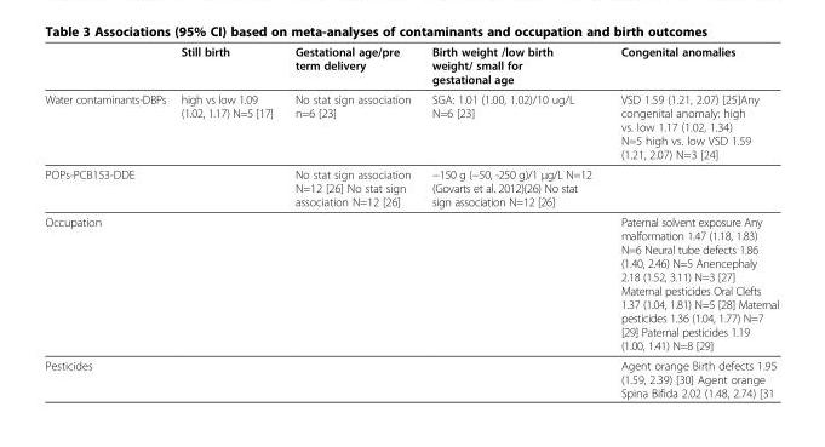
<table><thead><tr><td></td><td>Still birth</td><td>Gestational age/pre term delivery</td><td>Birth weight /low birth weight/ small for gestational age</td><td>Congenital anomalies</td></tr></thead><tbody><tr><td>Water contaminants-DBPs</td><td>high vs low 1.09 (1.02, 1.17) N=5 [17]</td><td>No stat sign association n=6 [23]</td><td>SGA: 1.01 (1.00, 1.02)/10 ug/L N=6 [23]</td><td>VSD 1.59 (1.21, 2.07) [25]Any congenital anomaly: high vs. low 1.17 (1.02, 1.34) N=5 high vs. low VSD 1.59 (1.21, 2.07) N=3 [24]</td></tr><tr><td>POPs-PCB153-DDE</td><td></td><td>No stat sign association N=12 [26] No stat sign association N=12 [26]</td><td>−150 g (−50, -250 g)/1 μg/L N=12 (Govarts et al. 2012)(26) No stat sign association N=12 [26]</td><td></td></tr><tr><td>Occupation</td><td></td><td></td><td></td><td>Paternal solvent exposure Any malformation 1.47 (1.18, 1.83) N=6 Neural tube defects 1.86 (1.40, 2.46) N=5 Anencephaly 2.18 (1.52, 3.11) N=3 [27] Maternal pesticides Oral Clefts 1.37 (1.04, 1.81) N=5 [28] Maternal pesticides 1.36 (1.04, 1.77) N=7 [29] Paternal pesticides 1.19 (1.00, 1.41) N=8 [29]</td></tr><tr><td>Pesticides</td><td></td><td></td><td></td><td>Agent orange Birth defects 1.95 (1.59, 2.39) [30] Agent orange Spina Bifida 2.02 (1.48, 2.74) [31</td></tr></tbody></table>